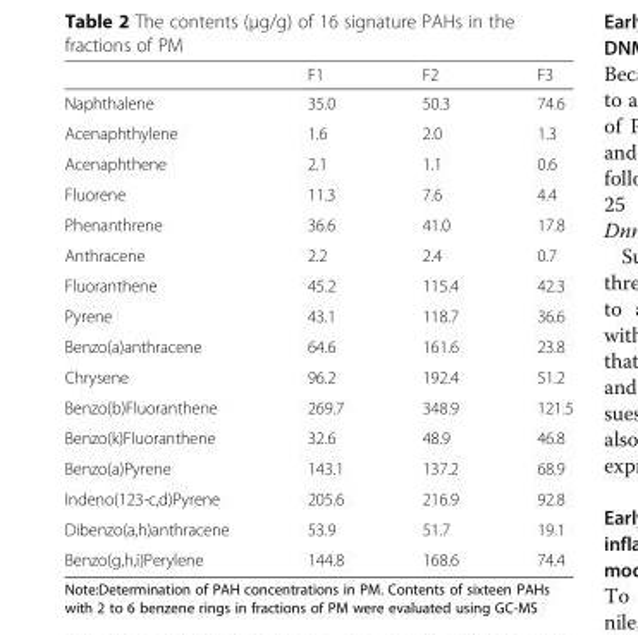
<table><thead><tr><td></td><td>F1</td><td>F2</td><td>F3</td></tr></thead><tbody><tr><td>Naphthalene</td><td>35.0</td><td>50.3</td><td>74.6</td></tr><tr><td>Acenaphthylene</td><td>1.6</td><td>2.0</td><td>1.3</td></tr><tr><td>Acenaphthene</td><td>2.1</td><td>1.1</td><td>0.6</td></tr><tr><td>Fluorene</td><td>11.3</td><td>7.6</td><td>4.4</td></tr><tr><td>Phenanthrene</td><td>36.6</td><td>41.0</td><td>17.8</td></tr><tr><td>Anthracene</td><td>2.2</td><td>2.4</td><td>0.7</td></tr><tr><td>Fluoranthene</td><td>45.2</td><td>115.4</td><td>42.3</td></tr><tr><td>Pyrene</td><td>43.1</td><td>118.7</td><td>36.6</td></tr><tr><td>Benzo(a)anthracene</td><td>64.6</td><td>161.6</td><td>23.8</td></tr><tr><td>Chrysene</td><td>96.2</td><td>192.4</td><td>51.2</td></tr><tr><td>Benzo(b)Fluoranthene</td><td>269.7</td><td>348.9</td><td>121.5</td></tr><tr><td>Benzo(k)Fluoranthene</td><td>32.6</td><td>48.9</td><td>46.8</td></tr><tr><td>Benzo(a)Pyrene</td><td>143.1</td><td>137.2</td><td>68.9</td></tr><tr><td>Indeno(123-c,d)Pyrene</td><td>205.6</td><td>216.9</td><td>92.8</td></tr><tr><td>Dibenzo(a,h)anthracene</td><td>53.9</td><td>51.7</td><td>19.1</td></tr><tr><td>Benzo(g,h,i)Perylene</td><td>144.8</td><td>168.6</td><td>74.4</td></tr></tbody></table>